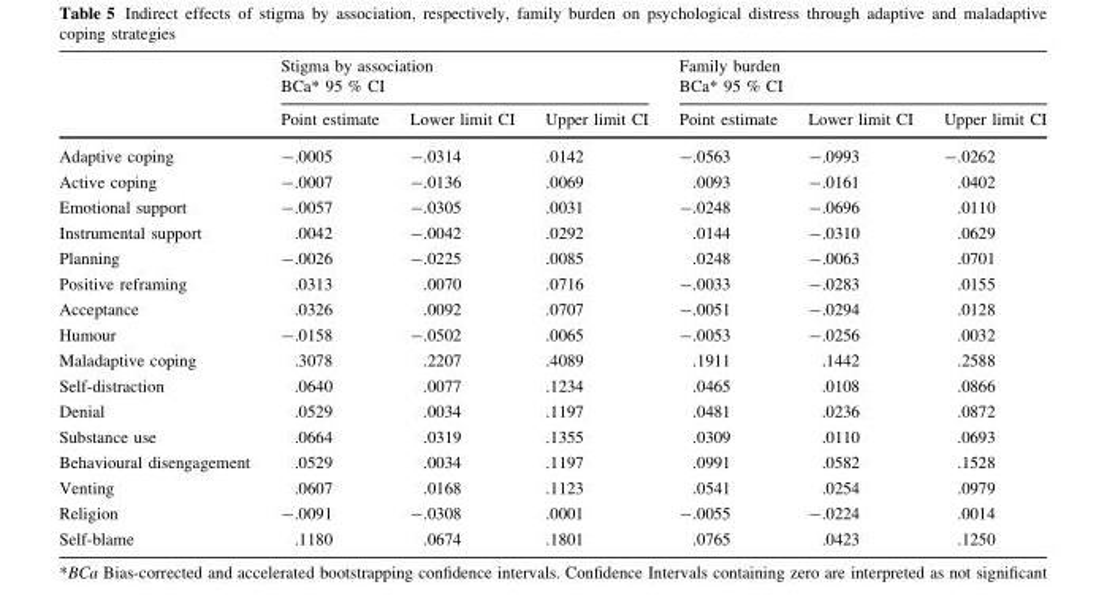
<table><thead><tr><td rowspan="2"></td><td colspan="3">Stigma by association BCa* 95 % CI</td><td colspan="3">Family burden BCa* 95 % CI</td></tr><tr><td>Point estimate</td><td>Lower limit CI</td><td>Upper limit CI</td><td>Point estimate</td><td>Lower limit CI</td><td>Upper limit CI</td></tr></thead><tbody><tr><td>Adaptive coping</td><td>-.0005</td><td>-.0314</td><td>.0142</td><td>-.0563</td><td>-.0993</td><td>-.0262</td></tr><tr><td>Active coping</td><td>-.0007</td><td>-.0136</td><td>.0069</td><td>.0093</td><td>-.0161</td><td>.0402</td></tr><tr><td>Emotional support</td><td>-.0057</td><td>-.0305</td><td>.0031</td><td>-.0248</td><td>-.0696</td><td>.0110</td></tr><tr><td>Instrumental support</td><td>.0042</td><td>-.0042</td><td>.0292</td><td>.0144</td><td>-.0310</td><td>.0629</td></tr><tr><td>Planning</td><td>-.0026</td><td>-.0225</td><td>.0085</td><td>.0248</td><td>-.0063</td><td>.0701</td></tr><tr><td>Positive reframing</td><td>.0313</td><td>.0070</td><td>.0716</td><td>-.0033</td><td>-.0283</td><td>.0155</td></tr><tr><td>Acceptance</td><td>.0326</td><td>.0092</td><td>.0707</td><td>-.0051</td><td>-.0294</td><td>.0128</td></tr><tr><td>Humour</td><td>-.0158</td><td>-.0502</td><td>.0065</td><td>-.0053</td><td>-.0256</td><td>.0032</td></tr><tr><td>Maladaptive coping</td><td>.3078</td><td>.2207</td><td>.4089</td><td>.1911</td><td>.1442</td><td>.2588</td></tr><tr><td>Self-distraction</td><td>.0640</td><td>.0077</td><td>.1234</td><td>.0465</td><td>.0108</td><td>.0866</td></tr><tr><td>Denial</td><td>.0529</td><td>.0034</td><td>.1197</td><td>.0481</td><td>.0236</td><td>.0872</td></tr><tr><td>Substance use</td><td>.0664</td><td>.0319</td><td>.1355</td><td>.0309</td><td>.0110</td><td>.0693</td></tr><tr><td>Behavioural disengagement</td><td>.0529</td><td>.0034</td><td>.1197</td><td>.0991</td><td>.0582</td><td>.1528</td></tr><tr><td>Venting</td><td>.0607</td><td>.0168</td><td>.1123</td><td>.0541</td><td>.0254</td><td>.0979</td></tr><tr><td>Religion</td><td>-.0091</td><td>-.0308</td><td>.0001</td><td>-.0055</td><td>-.0224</td><td>.0014</td></tr><tr><td>Self-blame</td><td>.1180</td><td>.0674</td><td>.1801</td><td>.0765</td><td>.0423</td><td>.1250</td></tr></tbody></table>